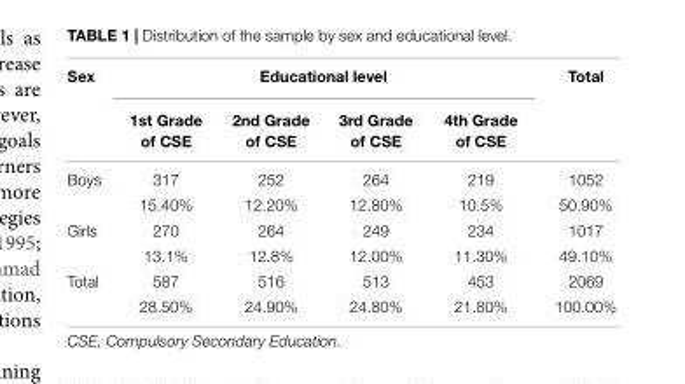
<table><thead><tr><td rowspan="2">Sex</td><td colspan="4">Educational level</td><td rowspan="2">Total</td></tr><tr><td>1st Grade of CSE</td><td>2nd Grade of CSE</td><td>3rd Grade of CSE</td><td>4th Grade of CSE</td></tr></thead><tbody><tr><td rowspan="2">Boys</td><td>317</td><td>252</td><td>264</td><td>219</td><td>1052</td></tr><tr><td>15.40%</td><td>12.20%</td><td>12.80%</td><td>10.5%</td><td>50.90%</td></tr><tr><td rowspan="2">Girls</td><td>270</td><td>264</td><td>249</td><td>234</td><td>1017</td></tr><tr><td>13.1%</td><td>12.8%</td><td>12.00%</td><td>11.30%</td><td>49.10%</td></tr><tr><td rowspan="2">Total</td><td>587</td><td>516</td><td>513</td><td>453</td><td>2069</td></tr><tr><td>28.50%</td><td>24.90%</td><td>24.80%</td><td>21.80%</td><td>100.00%</td></tr></tbody></table>